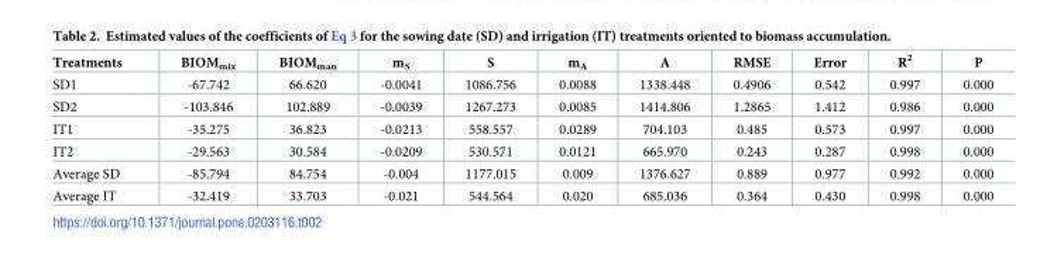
<table><thead><tr><td>Treatments</td><td>BIOM<sub>mix</sub></td><td>BIOM<sub>man</sub></td><td>m<sub>S</sub></td><td>S</td><td>m<sub>A</sub></td><td>A</td><td>RMSE</td><td>Error</td><td>R<sup>2</sup></td><td>P</td></tr></thead><tbody><tr><td>SD1</td><td>-67.742</td><td>66.620</td><td>-0.0041</td><td>1086.756</td><td>0.0088</td><td>1338.448</td><td>0.4906</td><td>0.542</td><td>0.997</td><td>0.000</td></tr><tr><td>SD2</td><td>-103.846</td><td>102.889</td><td>-0.0039</td><td>1267.273</td><td>0.0085</td><td>1414.806</td><td>1.2865</td><td>1.412</td><td>0.986</td><td>0.000</td></tr><tr><td>IT1</td><td>-35.275</td><td>36.823</td><td>-0.0213</td><td>558.557</td><td>0.0289</td><td>704.103</td><td>0.485</td><td>0.573</td><td>0.997</td><td>0.000</td></tr><tr><td>IT2</td><td>-29.563</td><td>30.584</td><td>-0.0209</td><td>530.571</td><td>0.0121</td><td>665.970</td><td>0.243</td><td>0.287</td><td>0.998</td><td>0.000</td></tr><tr><td>Average SD</td><td>-85.794</td><td>84.754</td><td>-0.004</td><td>1177.015</td><td>0.009</td><td>1376.627</td><td>0.889</td><td>0.977</td><td>0.992</td><td>0.000</td></tr><tr><td>Average IT</td><td>-32.419</td><td>33.703</td><td>-0.021</td><td>544.564</td><td>0.020</td><td>685.036</td><td>0.364</td><td>0.430</td><td>0.998</td><td>0.000</td></tr></tbody></table>